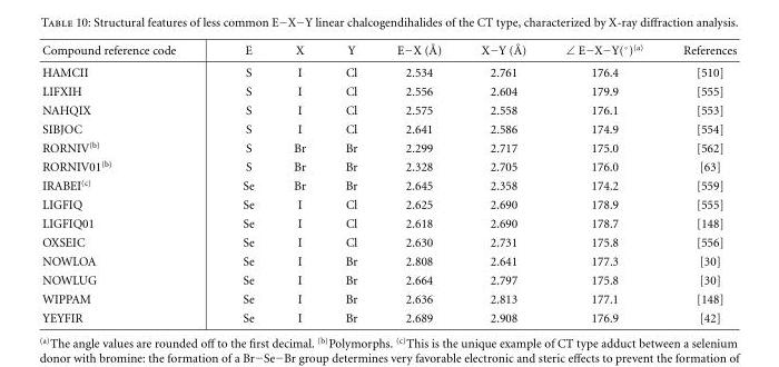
<table><thead><tr><td>Compound reference code</td><td>E</td><td>X</td><td>Y</td><td>E−X ( ˚A)</td><td>X−Y ( ˚A)</td><td>∠ E−X−Y(◦)(a)</td><td>References</td></tr></thead><tbody><tr><td>HAMCII</td><td>S</td><td>I</td><td>Cl</td><td>2.534</td><td>2.761</td><td>176.4</td><td>[510]</td></tr><tr><td>LIFXIH</td><td>S</td><td>I</td><td>Cl</td><td>2.556</td><td>2.604</td><td>179.9</td><td>[555]</td></tr><tr><td>NAHQIX</td><td>S</td><td>I</td><td>Cl</td><td>2.575</td><td>2.558</td><td>176.1</td><td>[553]</td></tr><tr><td>SIBJOC</td><td>S</td><td>I</td><td>Cl</td><td>2.641</td><td>2.586</td><td>174.9</td><td>[554]</td></tr><tr><td>RORNIV<sup>(b)</sup></td><td>S</td><td>Br</td><td>Br</td><td>2.299</td><td>2.717</td><td>175.0</td><td>[562]</td></tr><tr><td>RORNIV01<sup>(b)</sup></td><td>S</td><td>Br</td><td>Br</td><td>2.328</td><td>2.705</td><td>176.0</td><td>[63]</td></tr><tr><td>IRABEI<sup>(c)</sup></td><td>Se</td><td>Br</td><td>Br</td><td>2.645</td><td>2.358</td><td>174.2</td><td>[559]</td></tr><tr><td>LIGFIQ</td><td>Se</td><td>I</td><td>Cl</td><td>2.625</td><td>2.690</td><td>178.9</td><td>[555]</td></tr><tr><td>LIGFIQ01</td><td>Se</td><td>I</td><td>Cl</td><td>2.618</td><td>2.690</td><td>178.7</td><td>[148]</td></tr><tr><td>OXSEIC</td><td>Se</td><td>I</td><td>Cl</td><td>2.630</td><td>2.731</td><td>175.8</td><td>[556]</td></tr><tr><td>NOWLOA</td><td>Se</td><td>I</td><td>Br</td><td>2.808</td><td>2.641</td><td>177.3</td><td>[30]</td></tr><tr><td>NOWLUG</td><td>Se</td><td>I</td><td>Br</td><td>2.664</td><td>2.797</td><td>175.8</td><td>[30]</td></tr><tr><td>WIPPAM</td><td>Se</td><td>I</td><td>Br</td><td>2.636</td><td>2.813</td><td>177.1</td><td>[148]</td></tr><tr><td>YEYFIR</td><td>Se</td><td>I</td><td>Br</td><td>2.689</td><td>2.908</td><td>176.9</td><td>[42]</td></tr></tbody></table>